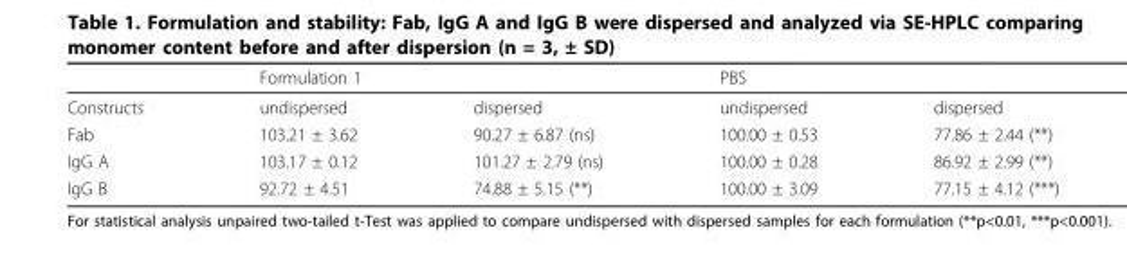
<table><thead><tr><td rowspan="2">Constructs</td><td colspan="2">Formulation 1</td><td colspan="2">PBS</td></tr><tr><td>undispersed</td><td>dispersed</td><td>undispersed</td><td>dispersed</td></tr></thead><tbody><tr><td>Fab</td><td>103.21 ± 3.62</td><td>90.27 ± 6.87 (ns)</td><td>100.00 ± 0.53</td><td>77.86 ± 2.44 (**)</td></tr><tr><td>IgG A</td><td>103.17 ± 0.12</td><td>101.27 ± 2.79 (ns)</td><td>100.00 ± 0.28</td><td>86.92 ± 2.99 (**)</td></tr><tr><td>IgG B</td><td>92.72 ± 4.51</td><td>74.88 ± 5.15 (**)</td><td>100.00 ± 3.09</td><td>77.15 ± 4.12 (***)</td></tr></tbody></table>